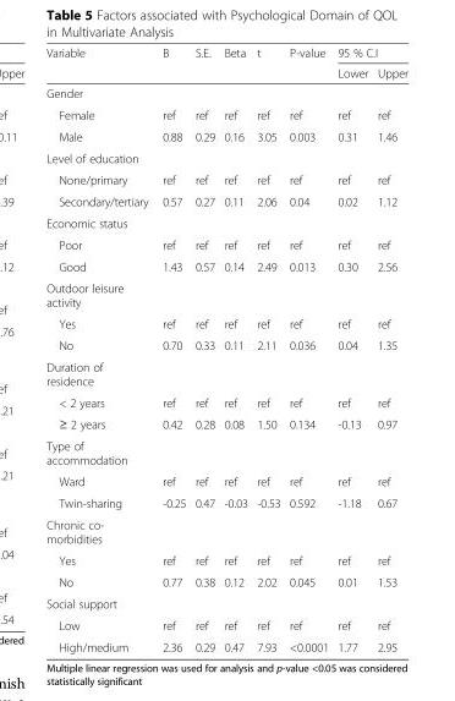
<table><thead><tr><td rowspan="2">Variable</td><td rowspan="2">B</td><td rowspan="2">S.E.</td><td rowspan="2">Beta</td><td rowspan="2">t</td><td rowspan="2">P-value</td><td colspan="2">95 % C.I</td></tr><tr><td>Lower</td><td>Upper</td></tr></thead><tbody><tr><td colspan="8">Gender</td></tr><tr><td>Female</td><td>ref</td><td>ref</td><td>ref</td><td>ref</td><td>ref</td><td>ref</td><td>ref</td></tr><tr><td>Male</td><td>0.88</td><td>0.29</td><td>0.16</td><td>3.05</td><td>0.003</td><td>0.31</td><td>1.46</td></tr><tr><td colspan="8">Level of education</td></tr><tr><td>None/primary</td><td>ref</td><td>ref</td><td>ref</td><td>ref</td><td>ref</td><td>ref</td><td>ref</td></tr><tr><td>Secondary/tertiary</td><td>0.57</td><td>0.27</td><td>0.11</td><td>2.06</td><td>0.04</td><td>0.02</td><td>1.12</td></tr><tr><td colspan="8">Economic status</td></tr><tr><td>Poor</td><td>ref</td><td>ref</td><td>ref</td><td>ref</td><td>ref</td><td>ref</td><td>ref</td></tr><tr><td>Good</td><td>1.43</td><td>0.57</td><td>0.14</td><td>2.49</td><td>0.013</td><td>0.30</td><td>2.56</td></tr><tr><td colspan="8">Outdoor leisure activity</td></tr><tr><td>Yes</td><td>ref</td><td>ref</td><td>ref</td><td>ref</td><td>ref</td><td>ref</td><td>ref</td></tr><tr><td>No</td><td>0.70</td><td>0.33</td><td>0.11</td><td>2.11</td><td>0.036</td><td>0.04</td><td>1.35</td></tr><tr><td colspan="8">Duration of residence</td></tr><tr><td>&lt; 2 years</td><td>ref</td><td>ref</td><td>ref</td><td>ref</td><td>ref</td><td>ref</td><td>ref</td></tr><tr><td>≥ 2 years</td><td>0.42</td><td>0.28</td><td>0.08</td><td>1.50</td><td>0.134</td><td>-0.13</td><td>0.97</td></tr><tr><td colspan="8">Type of accommodation</td></tr><tr><td>Ward</td><td>ref</td><td>ref</td><td>ref</td><td>ref</td><td>ref</td><td>ref</td><td>ref</td></tr><tr><td>Twin-sharing</td><td>-0.25</td><td>0.47</td><td>-0.03</td><td>-0.53</td><td>0.592</td><td>-1.18</td><td>0.67</td></tr><tr><td colspan="8">Chronic co- morbidities</td></tr><tr><td>Yes</td><td>ref</td><td>ref</td><td>ref</td><td>ref</td><td>ref</td><td>ref</td><td>ref</td></tr><tr><td>No</td><td>0.77</td><td>0.38</td><td>0.12</td><td>2.02</td><td>0.045</td><td>0.01</td><td>1.53</td></tr><tr><td colspan="8">Social support</td></tr><tr><td>Low</td><td>ref</td><td>ref</td><td>ref</td><td>ref</td><td>ref</td><td>ref</td><td>ref</td></tr><tr><td>High/medium</td><td>2.36</td><td>0.29</td><td>0.47</td><td>7.93</td><td>&lt;0.0001</td><td>1.77</td><td>2.95</td></tr></tbody></table>